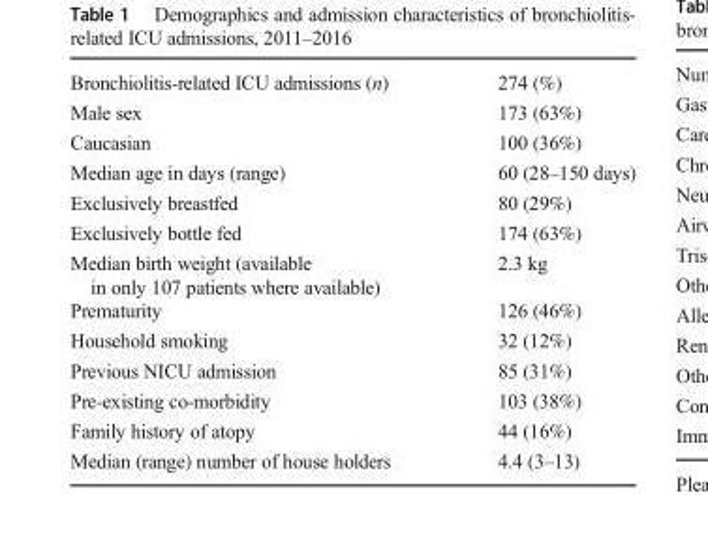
<table><tbody><tr><td>Bronchiolitis-related ICU admissions (n)</td><td>274 (%)</td></tr><tr><td>Male sex</td><td>173 (63%)</td></tr><tr><td>Caucasian</td><td>100 (36%)</td></tr><tr><td>Median age in days (range)</td><td>60 (28–150 days)</td></tr><tr><td>Exclusively breastfed</td><td>80 (29%)</td></tr><tr><td>Exclusively bottle fed</td><td>174 (63%)</td></tr><tr><td>Median birth weight (available in only 107 patients where available)</td><td>2.3 kg</td></tr><tr><td>Prematurity</td><td>126 (46%)</td></tr><tr><td>Household smoking</td><td>32 (12%)</td></tr><tr><td>Previous NICU admission</td><td>85 (31%)</td></tr><tr><td>Pre-existing co-morbidity</td><td>103 (38%)</td></tr><tr><td>Family history of atopy</td><td>44 (16%)</td></tr><tr><td>Median (range) number of house holders</td><td>4.4 (3–13)</td></tr></tbody></table>